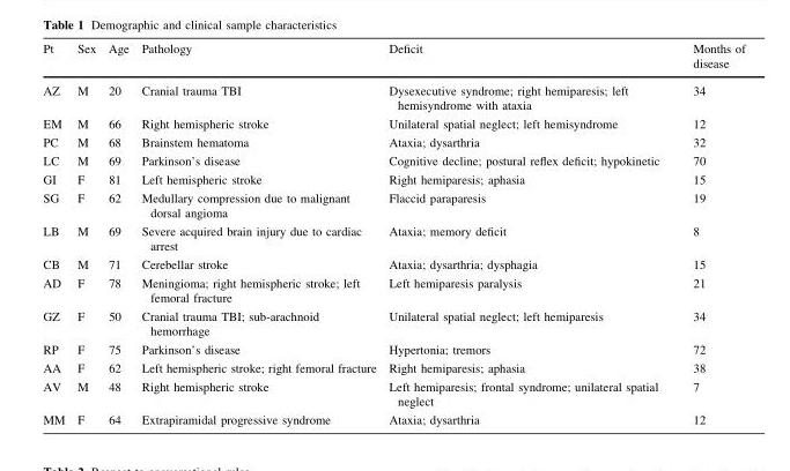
<table><thead><tr><td>Pt</td><td>Sex</td><td>Age</td><td>Pathology</td><td>Deficit</td><td>Months of disease</td></tr></thead><tbody><tr><td>AZ</td><td>M</td><td>20</td><td>Cranial trauma TBI</td><td>Dysexecutive syndrome; right hemiparesis; left hemisyndrome with ataxia</td><td>34</td></tr><tr><td>EM</td><td>M</td><td>66</td><td>Right hemispheric stroke</td><td>Unilateral spatial neglect; left hemisyndrome</td><td>12</td></tr><tr><td>PC</td><td>M</td><td>68</td><td>Brainstem hematoma</td><td>Ataxia; dysarthria</td><td>32</td></tr><tr><td>LC</td><td>M</td><td>69</td><td>Parkinson’s disease</td><td>Cognitive decline; postural reflex deficit; hypokinetic</td><td>70</td></tr><tr><td>GI</td><td>F</td><td>81</td><td>Left hemispheric stroke</td><td>Right hemiparesis; aphasia</td><td>15</td></tr><tr><td>SG</td><td>F</td><td>62</td><td>Medullary compression due to malignant dorsal angioma</td><td>Flaccid paraparesis</td><td>19</td></tr><tr><td>LB</td><td>M</td><td>69</td><td>Severe acquired brain injury due to cardiac arrest</td><td>Ataxia; memory deficit</td><td>8</td></tr><tr><td>CB</td><td>M</td><td>71</td><td>Cerebellar stroke</td><td>Ataxia; dysarthria; dysphagia</td><td>15</td></tr><tr><td>AD</td><td>F</td><td>78</td><td>Meningioma; right hemispheric stroke; left femoral fracture</td><td>Left hemiparesis paralysis</td><td>21</td></tr><tr><td>GZ</td><td>F</td><td>50</td><td>Cranial trauma TBI; sub-arachnoid hemorrhage</td><td>Unilateral spatial neglect; left hemiparesis</td><td>34</td></tr><tr><td>RP</td><td>F</td><td>75</td><td>Parkinson’s disease</td><td>Hypertonia; tremors</td><td>72</td></tr><tr><td>AA</td><td>F</td><td>62</td><td>Left hemispheric stroke; right femoral fracture</td><td>Right hemiparesis; aphasia</td><td>38</td></tr><tr><td>AV</td><td>M</td><td>48</td><td>Right hemispheric stroke</td><td>Left hemiparesis; frontal syndrome; unilateral spatial neglect</td><td>7</td></tr><tr><td>MM</td><td>F</td><td>64</td><td>Extrapiramidal progressive syndrome</td><td>Ataxia; dysarthria</td><td>12</td></tr></tbody></table>